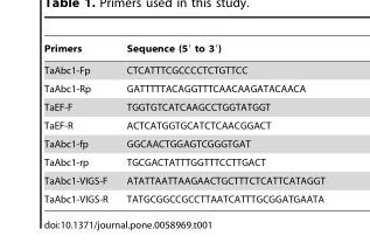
<table><thead><tr><td>Primers</td><td>Sequence (5′ to 3′)</td></tr></thead><tbody><tr><td>TaAbc1-Fp</td><td>CTCATTTCGCCCCTCTGTTCC</td></tr><tr><td>TaAbc1-Rp</td><td>GATTTTTACAGGTTTCAACAAGATACAACA</td></tr><tr><td>TaEF-F</td><td>TGGTGTCATCAAGCCTGGTATGGT</td></tr><tr><td>TaEF-R</td><td>ACTCATGGTGCATCTCAACGGACT</td></tr><tr><td>TaAbc1-fp</td><td>GGCAACTGGAGTCGGGTGAT</td></tr><tr><td>TaAbc1-rp</td><td>TGCGACTATTTGGTTTCCTTGACT</td></tr><tr><td>TaAbc1-VIGS-F</td><td>ATATTAATTAAGAACTGCTTTCTCATTCATAGGT</td></tr><tr><td>TaAbc1-VIGS-R</td><td>TATGCGGCCGCCTTAATCATTTGCGGATGAATA</td></tr></tbody></table>